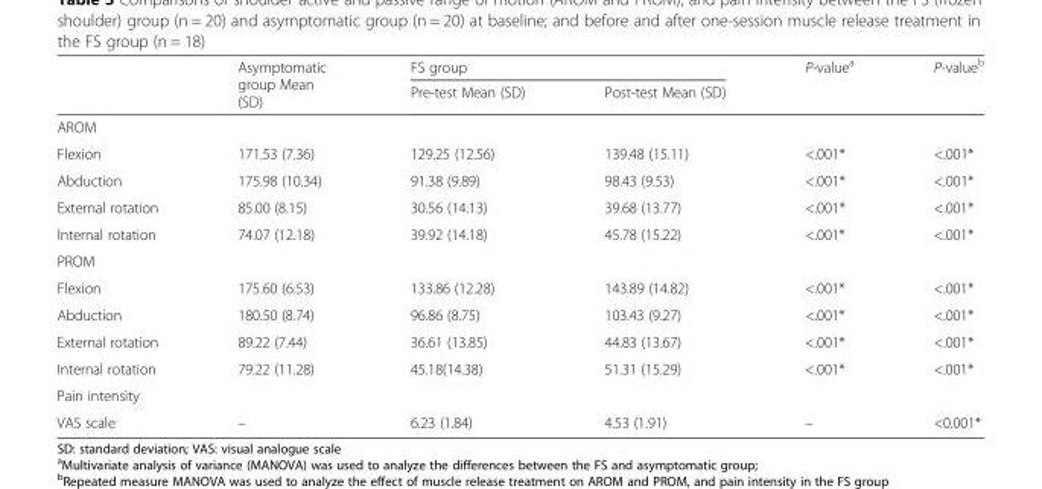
<table><thead><tr><td rowspan="2"></td><td rowspan="2">Asymptomatic group Mean (SD)</td><td colspan="2">FS group</td><td rowspan="2">P-value<sup>a</sup></td><td rowspan="2">P-value<sup>b</sup></td></tr><tr><td>Pre-test Mean (SD)</td><td>Post-test Mean (SD)</td></tr></thead><tbody><tr><td colspan="6">AROM</td></tr><tr><td>Flexion</td><td>171.53 (7.36)</td><td>129.25 (12.56)</td><td>139.48 (15.11)</td><td>&lt;.001*</td><td>&lt;.001*</td></tr><tr><td>Abduction</td><td>175.98 (10.34)</td><td>91.38 (9.89)</td><td>98.43 (9.53)</td><td>&lt;.001*</td><td>&lt;.001*</td></tr><tr><td>External rotation</td><td>85.00 (8.15)</td><td>30.56 (14.13)</td><td>39.68 (13.77)</td><td>&lt;.001*</td><td>&lt;.001*</td></tr><tr><td>Internal rotation</td><td>74.07 (12.18)</td><td>39.92 (14.18)</td><td>45.78 (15.22)</td><td>&lt;.001*</td><td>&lt;.001*</td></tr><tr><td colspan="6">PROM</td></tr><tr><td>Flexion</td><td>175.60 (6.53)</td><td>133.86 (12.28)</td><td>143.89 (14.82)</td><td>&lt;.001*</td><td>&lt;.001*</td></tr><tr><td>Abduction</td><td>180.50 (8.74)</td><td>96.86 (8.75)</td><td>103.43 (9.27)</td><td>&lt;.001*</td><td>&lt;.001*</td></tr><tr><td>External rotation</td><td>89.22 (7.44)</td><td>36.61 (13.85)</td><td>44.83 (13.67)</td><td>&lt;.001*</td><td>&lt;.001*</td></tr><tr><td>Internal rotation</td><td>79.22 (11.28)</td><td>45.18(14.38)</td><td>51.31 (15.29)</td><td>&lt;.001*</td><td>&lt;.001*</td></tr><tr><td colspan="6">Pain intensity</td></tr><tr><td>VAS scale</td><td>–</td><td>6.23 (1.84)</td><td>4.53 (1.91)</td><td>–</td><td>&lt;0.001*</td></tr></tbody></table>